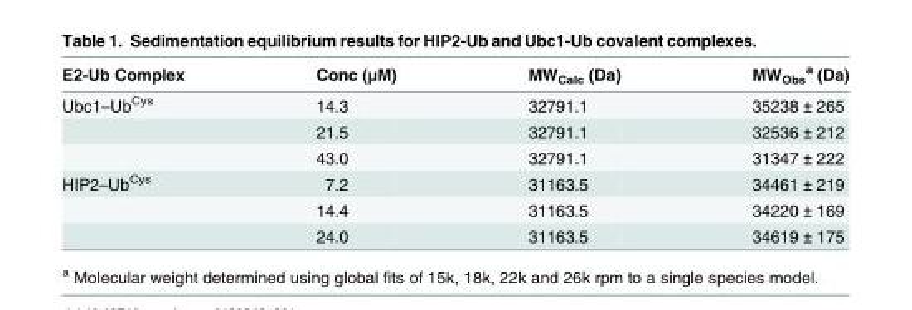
<table><thead><tr><td>E2-Ub Complex</td><td>Conc (μM)</td><td>MW<sub>Calc</sub> (Da)</td><td>MW<sub>Obs</sub> <sup>a</sup> (Da)</td></tr></thead><tbody><tr><td rowspan="3">Ubc1–Ub<sup>Cys</sup></td><td>14.3</td><td>32791.1</td><td>35238 ± 265</td></tr><tr><td>21.5</td><td>32791.1</td><td>32536 ± 212</td></tr><tr><td>43.0</td><td>32791.1</td><td>31347 ± 222</td></tr><tr><td rowspan="3">HIP2–Ub<sup>Cys</sup></td><td>7.2</td><td>31163.5</td><td>34461 ± 219</td></tr><tr><td>14.4</td><td>31163.5</td><td>34220 ± 169</td></tr><tr><td>24.0</td><td>31163.5</td><td>34619 ± 175</td></tr></tbody></table>